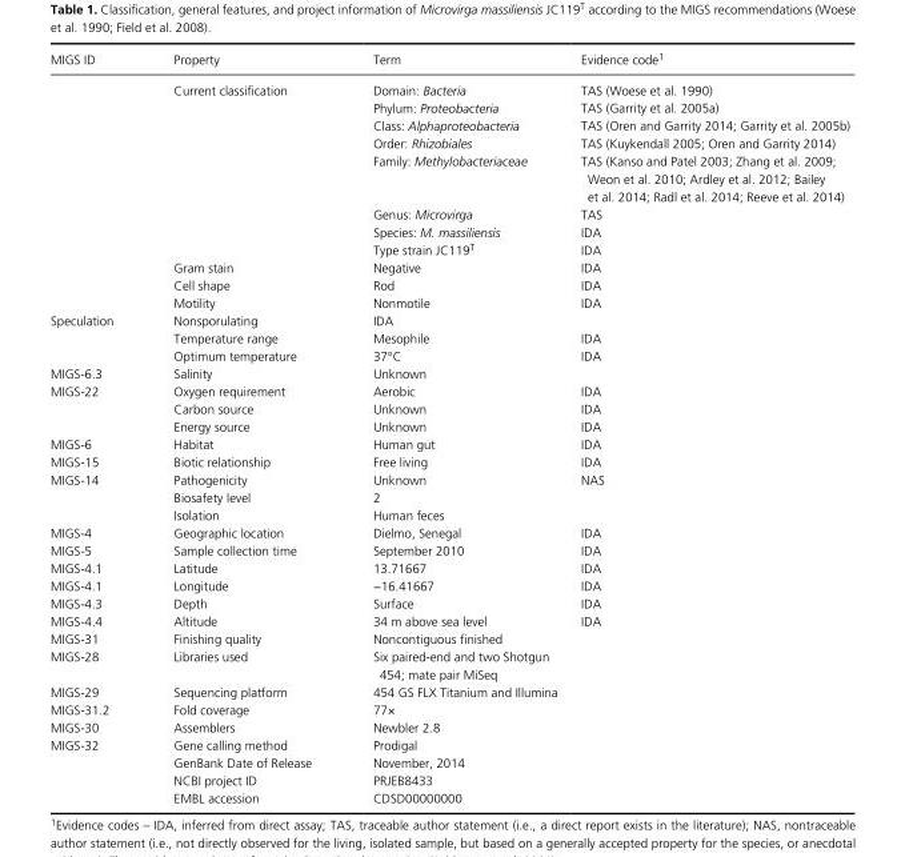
<table><thead><tr><td>MIGS ID</td><td>Property</td><td>Term</td><td>Evidence code1</td></tr></thead><tbody><tr><td></td><td>Current classification</td><td>Domain: Bacteria</td><td>TAS (Woese et al. 1990)</td></tr><tr><td></td><td></td><td>Phylum: Proteobacteria</td><td>TAS (Garrity et al. 2005a)</td></tr><tr><td></td><td></td><td>Class: Alphaproteobacteria</td><td>TAS (Oren and Garrity 2014; Garrity et al. 2005b)</td></tr><tr><td></td><td></td><td>Order: Rhizobiales</td><td>TAS (Kuykendall 2005; Oren and Garrity 2014)</td></tr><tr><td></td><td></td><td>Family: Methylobacteriaceae</td><td>TAS (Kanso and Patel 2003; Zhang et al. 2009; Weon et al. 2010; Ardley et al. 2012; Bailey et al. 2014; Radl et al. 2014; Reeve et al. 2014)</td></tr><tr><td></td><td></td><td>Genus: Microvirga</td><td>TAS</td></tr><tr><td></td><td></td><td>Species: M. massiliensis</td><td>IDA</td></tr><tr><td></td><td></td><td>Type strain JC119<sup>T</sup></td><td>IDA</td></tr><tr><td></td><td>Gram stain</td><td>Negative</td><td>IDA</td></tr><tr><td></td><td>Cell shape</td><td>Rod</td><td>IDA</td></tr><tr><td></td><td>Motility</td><td>Nonmotile</td><td>IDA</td></tr><tr><td rowspan="3">Speculation</td><td>Nonsporulating</td><td>IDA</td><td></td></tr><tr><td>Temperature range</td><td>Mesophile</td><td>IDA</td></tr><tr><td>Optimum temperature</td><td>37°C</td><td>IDA</td></tr><tr><td>MIGS- 6.3</td><td>Salinity</td><td>Unknown</td><td></td></tr><tr><td rowspan="3">MIGS- 22</td><td>Oxygen requirement</td><td>Aerobic</td><td>IDA</td></tr><tr><td>Carbon source</td><td>Unknown</td><td>IDA</td></tr><tr><td>Energy source</td><td>Unknown</td><td>IDA</td></tr><tr><td>MIGS- 6</td><td>Habitat</td><td>Human gut</td><td>IDA</td></tr><tr><td>MIGS- 15</td><td>Biotic relationship</td><td>Free living</td><td>IDA</td></tr><tr><td rowspan="3">MIGS- 14</td><td>Pathogenicity</td><td>Unknown</td><td>NAS</td></tr><tr><td>Biosafety level</td><td>2</td><td></td></tr><tr><td>Isolation</td><td>Human feces</td><td></td></tr><tr><td>MIGS- 4</td><td>Geographic location</td><td>Dielmo, Senegal</td><td>IDA</td></tr><tr><td>MIGS- 5</td><td>Sample collection time</td><td>September 2010</td><td>IDA</td></tr><tr><td>MIGS- 4.1</td><td>Latitude</td><td>13.71667</td><td>IDA</td></tr><tr><td>MIGS- 4.1</td><td>Longitude</td><td>−16.41667</td><td>IDA</td></tr><tr><td>MIGS- 4.3</td><td>Depth</td><td>Surface</td><td>IDA</td></tr><tr><td>MIGS- 4.4</td><td>Altitude</td><td>34 m above sea level</td><td>IDA</td></tr><tr><td>MIGS- 31</td><td>Finishing quality</td><td>Noncontiguous finished</td><td></td></tr><tr><td>MIGS- 28</td><td>Libraries used</td><td>Six paired- end and two Shotgun 454; mate pair MiSeq</td><td></td></tr><tr><td>MIGS- 29</td><td>Sequencing platform</td><td>454 GS FLX Titanium and Illumina</td><td></td></tr><tr><td>MIGS- 31.2</td><td>Fold coverage</td><td>77×</td><td></td></tr><tr><td>MIGS- 30</td><td>Assemblers</td><td>Newbler 2.8</td><td></td></tr><tr><td rowspan="4">MIGS- 32</td><td>Gene calling method</td><td>Prodigal</td><td></td></tr><tr><td>GenBank Date of Release</td><td>November, 2014</td><td></td></tr><tr><td>NCBI project ID</td><td>PRJEB8433</td><td></td></tr><tr><td>EMBL accession</td><td>CDSD00000000</td><td></td></tr></tbody></table>